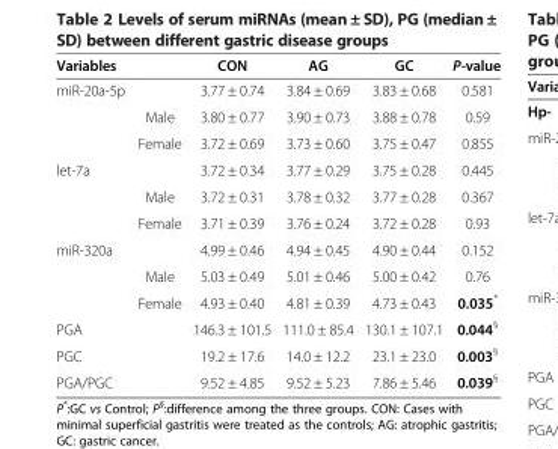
<table><thead><tr><td>Variables</td><td></td><td>CON</td><td>AG</td><td>GC</td><td>P-value</td></tr></thead><tbody><tr><td rowspan="3">miR-20a-5p</td><td></td><td>3.77 ± 0.74</td><td>3.84 ± 0.69</td><td>3.83 ± 0.68</td><td>0.581</td></tr><tr><td>Male</td><td>3.80 ± 0.77</td><td>3.90 ± 0.73</td><td>3.88 ± 0.78</td><td>0.59</td></tr><tr><td>Female</td><td>3.72 ± 0.69</td><td>3.73 ± 0.60</td><td>3.75 ± 0.47</td><td>0.855</td></tr><tr><td rowspan="3">let-7a</td><td></td><td>3.72 ± 0.34</td><td>3.77 ± 0.29</td><td>3.75 ± 0.28</td><td>0.445</td></tr><tr><td>Male</td><td>3.72 ± 0.31</td><td>3.78 ± 0.32</td><td>3.77 ± 0.28</td><td>0.367</td></tr><tr><td>Female</td><td>3.71 ± 0.39</td><td>3.76 ± 0.24</td><td>3.72 ± 0.28</td><td>0.93</td></tr><tr><td rowspan="3">miR-320a</td><td></td><td>4.99 ± 0.46</td><td>4.94 ± 0.45</td><td>4.90 ± 0.44</td><td>0.152</td></tr><tr><td>Male</td><td>5.03 ± 0.49</td><td>5.01 ± 0.46</td><td>5.00 ± 0.42</td><td>0.76</td></tr><tr><td>Female</td><td>4.93 ± 0.40</td><td>4.81 ± 0.39</td><td>4.73 ± 0.43</td><td>0.035*</td></tr><tr><td>PGA</td><td></td><td>146.3 ± 101.5</td><td>111.0 ± 85.4</td><td>130.1 ± 107.1</td><td>0.044<sup>§</sup></td></tr><tr><td>PGC</td><td></td><td>19.2 ± 17.6</td><td>14.0 ± 12.2</td><td>23.1 ± 23.0</td><td>0.003<sup>§</sup></td></tr><tr><td>PGA/PGC</td><td></td><td>9.52 ± 4.85</td><td>9.52 ± 5.23</td><td>7.86 ± 5.46</td><td>0.039<sup>§</sup></td></tr></tbody></table>